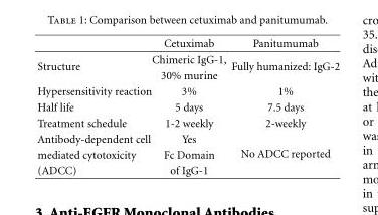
<table><thead><tr><td></td><td>Cetuximab</td><td>Panitumumab</td></tr></thead><tbody><tr><td rowspan="2">Structure</td><td>Chimeric IgG-1,</td><td rowspan="2">Fully humanized: IgG-2</td></tr><tr><td>30% murine</td></tr><tr><td>Hypersensitivity reaction</td><td>3%</td><td>1%</td></tr><tr><td>Half life</td><td>5 days</td><td>7.5 days</td></tr><tr><td>Treatment schedule</td><td>1-2 weekly</td><td>2-weekly</td></tr><tr><td>Antibody-dependent cell</td><td>Yes</td><td rowspan="3">No ADCC reported</td></tr><tr><td>mediated cytotoxicity</td><td>Fc Domain</td></tr><tr><td>(ADCC)</td><td>of IgG-1</td></tr></tbody></table>